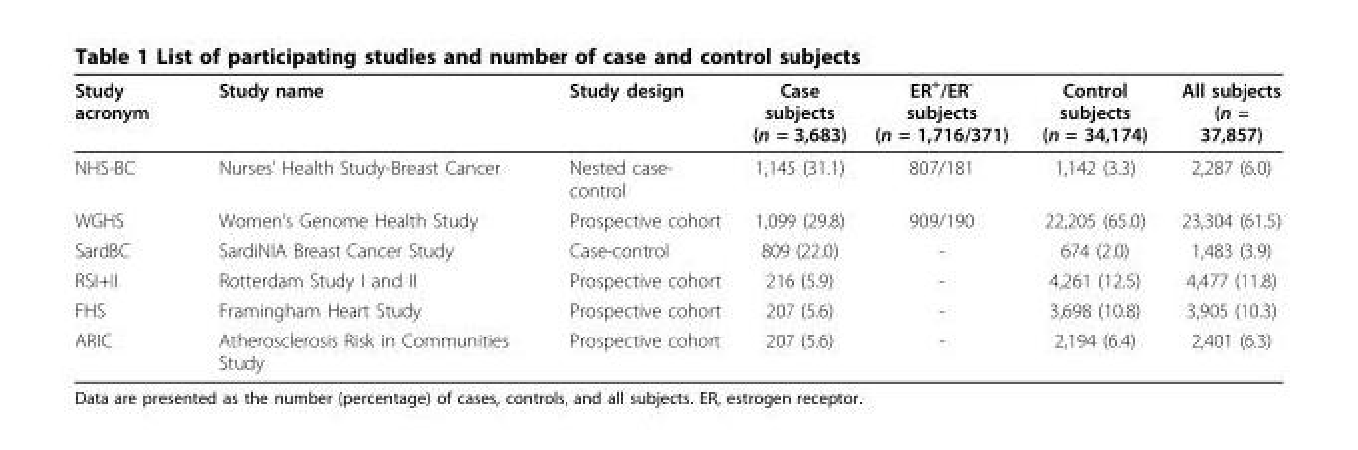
<table><thead><tr><td>Study acronym</td><td>Study name</td><td>Study design</td><td>Case subjects (n = 3,683)</td><td>ER<sup>+</sup>/ER<sup>-</sup> subjects (n = 1,716/371)</td><td>Control subjects (n = 34,174)</td><td>All subjects (n = 37,857)</td></tr></thead><tbody><tr><td>NHS-BC</td><td>Nurses’ Health Study-Breast Cancer</td><td>Nested case- control</td><td>1,145 (31.1)</td><td>807/181</td><td>1,142 (3.3)</td><td>2,287 (6.0)</td></tr><tr><td>WGHS</td><td>Women’s Genome Health Study</td><td>Prospective cohort</td><td>1,099 (29.8)</td><td>909/190</td><td>22,205 (65.0)</td><td>23,304 (61.5)</td></tr><tr><td>SardBC</td><td>SardiNIA Breast Cancer Study</td><td>Case-control</td><td>809 (22.0)</td><td>-</td><td>674 (2.0)</td><td>1,483 (3.9)</td></tr><tr><td>RSI+II</td><td>Rotterdam Study I and II</td><td>Prospective cohort</td><td>216 (5.9)</td><td>-</td><td>4,261 (12.5)</td><td>4,477 (11.8)</td></tr><tr><td>FHS</td><td>Framingham Heart Study</td><td>Prospective cohort</td><td>207 (5.6)</td><td>-</td><td>3,698 (10.8)</td><td>3,905 (10.3)</td></tr><tr><td>ARIC</td><td>Atherosclerosis Risk in Communities Study</td><td>Prospective cohort</td><td>207 (5.6)</td><td>-</td><td>2,194 (6.4)</td><td>2,401 (6.3)</td></tr></tbody></table>